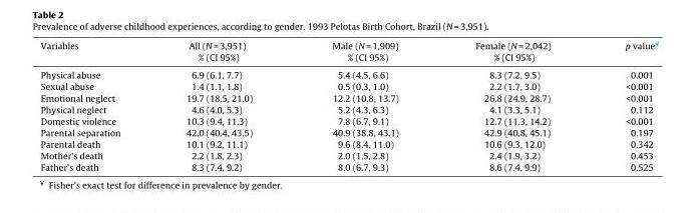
<table><thead><tr><td>Variables</td><td>All (N = 3,951) % (CI 95%)</td><td>Male (N = 1,909) % (CI 95%)</td><td>Female (N = 2,042) % (CI 95%)</td><td>p value¥</td></tr></thead><tbody><tr><td>Physical abuse</td><td>6.9 (6.1, 7.7)</td><td>5.4 (4.5, 6.6)</td><td>8.3 (7.2, 9.5)</td><td>0.001</td></tr><tr><td>Sexual abuse</td><td>1.4 (1.1, 1.8)</td><td>0.5 (0.3, 1.0)</td><td>2.2 (1.7, 3.0)</td><td>&lt;0.001</td></tr><tr><td>Emotional neglect</td><td>19.7 (18.5, 21.0)</td><td>12.2 (10.8, 13.7)</td><td>26.8 (24.9, 28.7)</td><td>&lt;0.001</td></tr><tr><td>Physical neglect</td><td>4.6 (4.0, 5.3)</td><td>5.2 (4.3, 6.3)</td><td>4.1 (3.3, 5.1)</td><td>0.112</td></tr><tr><td>Domestic violence</td><td>10.3 (9.4, 11.3)</td><td>7.8 (6.7, 9.1)</td><td>12.7 (11.3, 14.2)</td><td>&lt;0.001</td></tr><tr><td>Parental separation</td><td>42.0 (40.4, 43.5)</td><td>40.9 (38.8, 43.1)</td><td>42.9 (40.8, 45.1)</td><td>0.197</td></tr><tr><td>Parental death</td><td>10.1 (9.2, 11.1)</td><td>9.6 (8.4, 11.0)</td><td>10.6 (9.3, 12.0)</td><td>0.342</td></tr><tr><td>Mother’s death</td><td>2.2 (1.8, 2.3)</td><td>2.0 (1.5, 2.8)</td><td>2.4 (1.9, 3.2)</td><td>0.453</td></tr><tr><td>Father’s death</td><td>8.3 (7.4, 9.2)</td><td>8.0 (6.7, 9.3)</td><td>8.6 (7.4, 9.9)</td><td>0.525</td></tr></tbody></table>